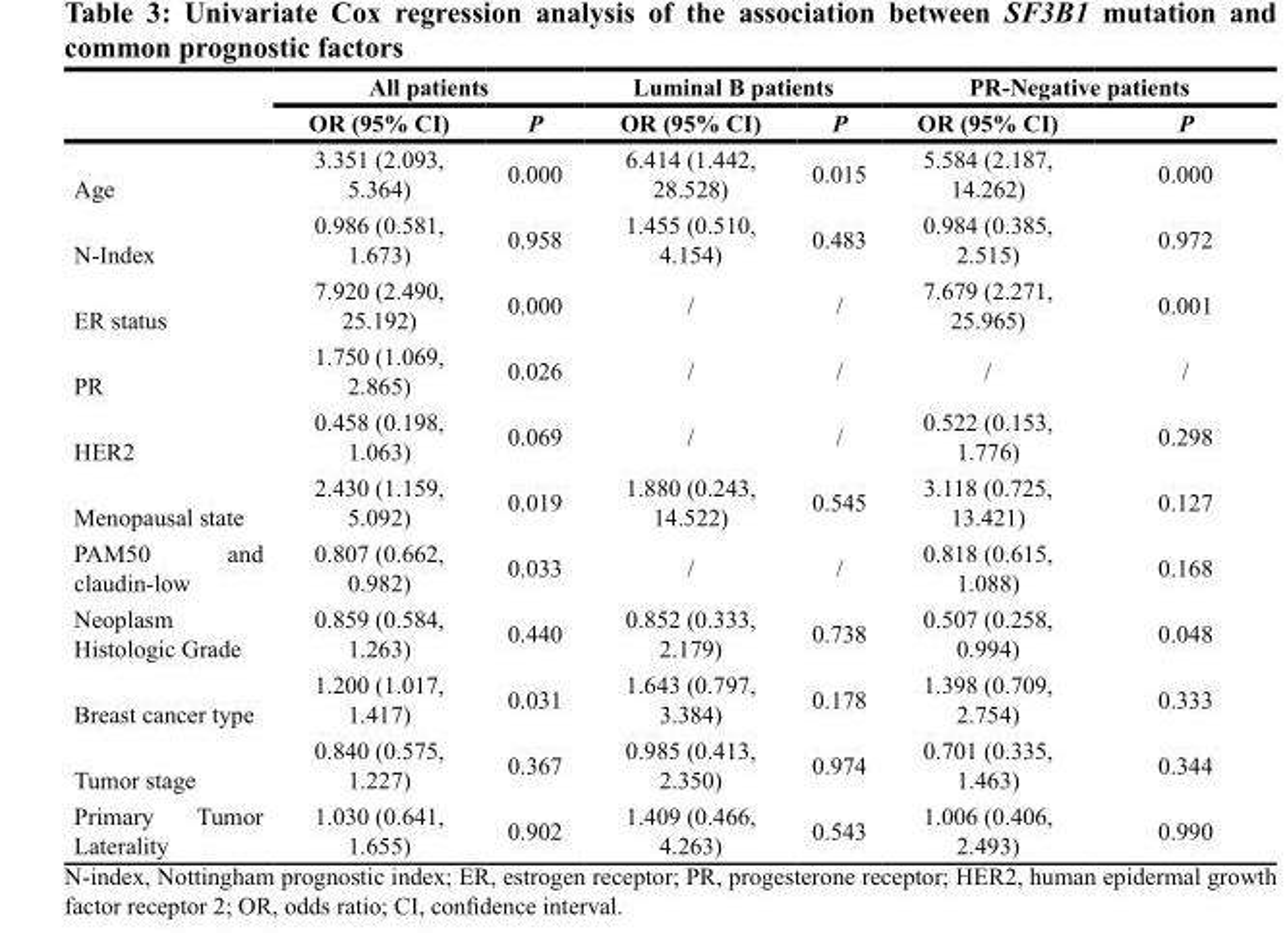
<table><thead><tr><td rowspan="2"></td><td colspan="2">All patients</td><td colspan="2">Luminal B patients</td><td colspan="2">PR-Negative patients</td></tr><tr><td>OR (95% CI)</td><td>P</td><td>OR (95% CI)</td><td>P</td><td>OR (95% CI)</td><td>P</td></tr></thead><tbody><tr><td>Age</td><td>3.351 (2.093, 5.364)</td><td>0.000</td><td>6.414 (1.442, 28.528)</td><td>0.015</td><td>5.584 (2.187, 14.262)</td><td>0.000</td></tr><tr><td>N-Index</td><td>0.986 (0.581, 1.673)</td><td>0.958</td><td>1.455 (0.510, 4.154)</td><td>0.483</td><td>0.984 (0.385, 2.515)</td><td>0.972</td></tr><tr><td>ER status</td><td>7.920 (2.490, 25.192)</td><td>0.000</td><td>/</td><td>/</td><td>7.679 (2.271, 25.965)</td><td>0.001</td></tr><tr><td>PR</td><td>1.750 (1.069, 2.865)</td><td>0.026</td><td>/</td><td>/</td><td>/</td><td>/</td></tr><tr><td>HER2</td><td>0.458 (0.198, 1.063)</td><td>0.069</td><td>/</td><td>/</td><td>0.522 (0.153, 1.776)</td><td>0.298</td></tr><tr><td>Menopausal state</td><td>2.430 (1.159, 5.092)</td><td>0.019</td><td>1.880 (0.243, 14.522)</td><td>0.545</td><td>3.118 (0.725, 13.421)</td><td>0.127</td></tr><tr><td>PAM50 and claudin-low</td><td>0.807 (0.662, 0.982)</td><td>0.033</td><td>/</td><td>/</td><td>0.818 (0.615, 1.088)</td><td>0.168</td></tr><tr><td>Neoplasm Histologic Grade</td><td>0.859 (0.584, 1.263)</td><td>0.440</td><td>0.852 (0.333, 2.179)</td><td>0.738</td><td>0.507 (0.258, 0.994)</td><td>0.048</td></tr><tr><td>Breast cancer type</td><td>1.200 (1.017, 1.417)</td><td>0.031</td><td>1.643 (0.797, 3.384)</td><td>0.178</td><td>1.398 (0.709, 2.754)</td><td>0.333</td></tr><tr><td>Tumor stage</td><td>0.840 (0.575, 1.227)</td><td>0.367</td><td>0.985 (0.413, 2.350)</td><td>0.974</td><td>0.701 (0.335, 1.463)</td><td>0.344</td></tr><tr><td>Primary Tumor Laterality</td><td>1.030 (0.641, 1.655)</td><td>0.902</td><td>1.409 (0.466, 4.263)</td><td>0.543</td><td>1.006 (0.406, 2.493)</td><td>0.990</td></tr></tbody></table>